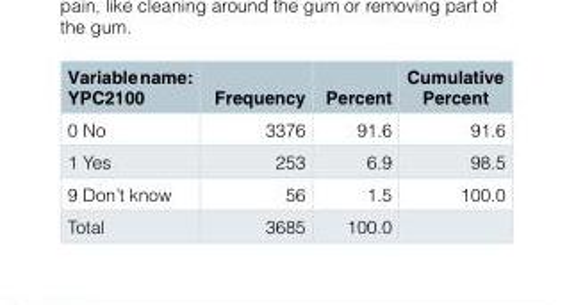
<table><thead><tr><td>Variable name: YPC2100</td><td>Frequency</td><td>Percent</td><td>Cumulative Percent</td></tr></thead><tbody><tr><td>0 No</td><td>3376</td><td>91.6</td><td>91.6</td></tr><tr><td>1 Yes</td><td>253</td><td>6.9</td><td>98.5</td></tr><tr><td>9 Don’t know</td><td>56</td><td>1.5</td><td>100.0</td></tr><tr><td>Total</td><td>3685</td><td>100.0</td><td></td></tr></tbody></table>